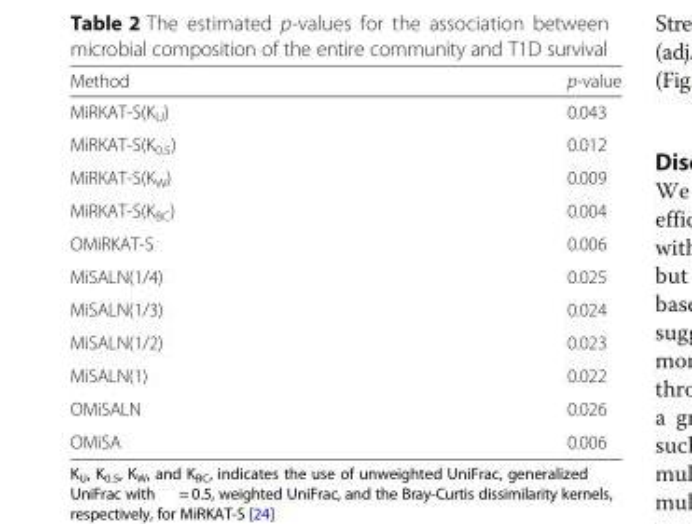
<table><thead><tr><td>Method</td><td>p-value</td></tr></thead><tbody><tr><td>MiRKAT-S(K<sub>U</sub>)</td><td>0.043</td></tr><tr><td>MiRKAT-S(K<sub>0.5</sub>)</td><td>0.012</td></tr><tr><td>MiRKAT-S(K<sub>W</sub>)</td><td>0.009</td></tr><tr><td>MiRKAT-S(K<sub>BC</sub>)</td><td>0.004</td></tr><tr><td>OMiRKAT-S</td><td>0.006</td></tr><tr><td>MiSALN(1/4)</td><td>0.025</td></tr><tr><td>MiSALN(1/3)</td><td>0.024</td></tr><tr><td>MiSALN(1/2)</td><td>0.023</td></tr><tr><td>MiSALN(1)</td><td>0.022</td></tr><tr><td>OMiSALN</td><td>0.026</td></tr><tr><td>OMiSA</td><td>0.006</td></tr></tbody></table>